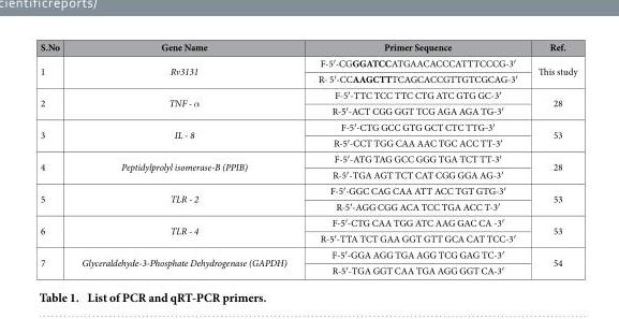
<table><thead><tr><td>S.No</td><td>Gene Name</td><td>Primer Sequence</td><td>Ref.</td></tr></thead><tbody><tr><td rowspan="2">1</td><td rowspan="2">Rv3131</td><td>F-5′-CGGGATCCATGAACACCCATTTCCCG-3′</td><td rowspan="2">This study</td></tr><tr><td>R- 5′-CCAAGCTTTCAGCACCGTTGTCGCAG-3′</td></tr><tr><td rowspan="2">2</td><td rowspan="2">TNF - α</td><td>F-5′-TTC TCC TTC CTG ATC GTG GC-3′</td><td rowspan="2">28</td></tr><tr><td>R-5′-ACT CGG GGT TCG AGA AGA TG-3′</td></tr><tr><td rowspan="2">3</td><td rowspan="2">IL - 8</td><td>F-5′-CTG GCC GTG GCT CTC TTG-3′</td><td rowspan="2">53</td></tr><tr><td>R-5′-CCT TGG CAA AAC TGC ACC TT-3′</td></tr><tr><td rowspan="2">4</td><td rowspan="2">Peptidylprolyl isomerase-B (PPIB)</td><td>F-5′-ATG TAG GCC GGG TGA TCT TT-3′</td><td rowspan="2">28</td></tr><tr><td>R-5′ -TGA AGT TCT CAT CGG GGA AG-3′</td></tr><tr><td rowspan="2">5</td><td rowspan="2">TLR - 2</td><td>F-5′-GGC CAG CAA ATT ACC TGT GTG-3′</td><td rowspan="2">53</td></tr><tr><td>R-5′-AGG CGG ACA TCC TGA ACC T-3′</td></tr><tr><td rowspan="2">6</td><td rowspan="2">TLR - 4</td><td>F-5′-CTG CAA TGG ATC AAG GAC CA -3′</td><td rowspan="2">53</td></tr><tr><td>R-5′-TTA TCT GAA GGT GTT GCA CAT TCC-3′</td></tr><tr><td rowspan="2">7</td><td rowspan="2">Glyceraldehyde-3-Phosphate Dehydrogenase (GAPDH)</td><td>F-5′-GGA AGG TGA AGG TCG GAG TC-3′</td><td rowspan="2">54</td></tr><tr><td>R-5′-TGA GGT CAA TGA AGG GGT CA-3′</td></tr></tbody></table>